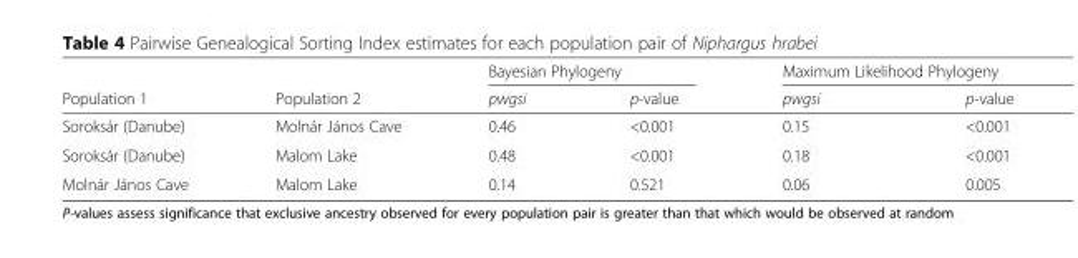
<table><thead><tr><td rowspan="2">Population 1</td><td rowspan="2">Population 2</td><td colspan="2">Bayesian Phylogeny</td><td colspan="2">Maximum Likelihood Phylogeny</td></tr><tr><td>pwgsi</td><td>p-value</td><td>pwgsi</td><td>p-value</td></tr></thead><tbody><tr><td>Soroksár (Danube)</td><td>Molnár János Cave</td><td>0.46</td><td>&lt;0.001</td><td>0.15</td><td>&lt;0.001</td></tr><tr><td>Soroksár (Danube)</td><td>Malom Lake</td><td>0.48</td><td>&lt;0.001</td><td>0.18</td><td>&lt;0.001</td></tr><tr><td>Molnár János Cave</td><td>Malom Lake</td><td>0.14</td><td>0.521</td><td>0.06</td><td>0.005</td></tr></tbody></table>